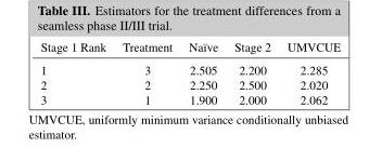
<table><thead><tr><td>Stage 1 Rank</td><td>Treatment</td><td>Naïve</td><td>Stage 2</td><td>UMVCUE</td></tr></thead><tbody><tr><td>1</td><td>3</td><td>2.505</td><td>2.200</td><td>2.285</td></tr><tr><td>2</td><td>2</td><td>2.250</td><td>2.500</td><td>2.020</td></tr><tr><td>3</td><td>1</td><td>1.900</td><td>2.000</td><td>2.062</td></tr></tbody></table>